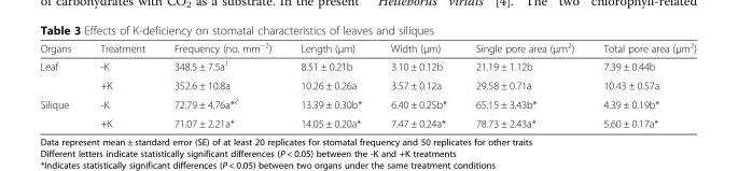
<table><thead><tr><td>Organs</td><td>Treatment</td><td>Frequency (no. mm<sup>−2</sup>)</td><td>Length (μm)</td><td>Width (μm)</td><td>Single pore area (μm<sup>2</sup>)</td><td>Total pore area (μm<sup>2</sup>)</td></tr></thead><tbody><tr><td rowspan="2">Leaf</td><td>-K</td><td>348.5 ± 7.5a<sup>1</sup></td><td>8.51 ± 0.21b</td><td>3.10 ± 0.12b</td><td>21.19 ± 1.12b</td><td>7.39 ± 0.44b</td></tr><tr><td>+K</td><td>352.6 ± 10.8a</td><td>10.26 ± 0.26a</td><td>3.57 ± 0.12a</td><td>29.58 ± 0.71a</td><td>10.43 ± 0.57a</td></tr><tr><td rowspan="2">Silique</td><td>-K</td><td>72.79 ± 4.76a*<sup>2</sup></td><td>13.39 ± 0.30b*</td><td>6.40 ± 0.25b*</td><td>65.15 ± 3.43b*</td><td>4.39 ± 0.19b*</td></tr><tr><td>+K</td><td>71.07 ± 2.21a*</td><td>14.05 ± 0.20a*</td><td>7.47 ± 0.24a*</td><td>78.73 ± 2.43a*</td><td>5.60 ± 0.17a*</td></tr></tbody></table>